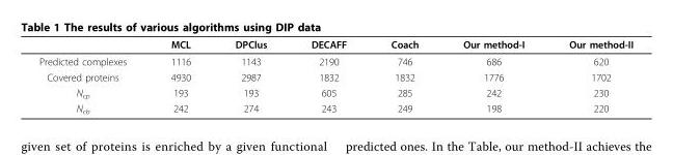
<table><thead><tr><td></td><td>MCL</td><td>DPClus</td><td>DECAFF</td><td>Coach</td><td>Our method-I</td><td>Our method-II</td></tr></thead><tbody><tr><td>Predicted complexes</td><td>1116</td><td>1143</td><td>2190</td><td>746</td><td>686</td><td>620</td></tr><tr><td>Covered proteins</td><td>4930</td><td>2987</td><td>1832</td><td>1832</td><td>1776</td><td>1702</td></tr><tr><td>N<sub>cp</sub></td><td>193</td><td>193</td><td>605</td><td>285</td><td>242</td><td>230</td></tr><tr><td>N<sub>cb</sub></td><td>242</td><td>274</td><td>243</td><td>249</td><td>198</td><td>220</td></tr></tbody></table>